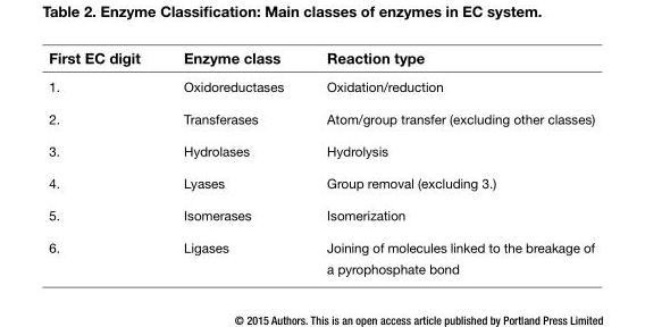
<table><thead><tr><td>First EC digit</td><td>Enzyme class</td><td>Reaction type</td></tr></thead><tbody><tr><td>1.</td><td>Oxidoreductases</td><td>Oxidation/reduction</td></tr><tr><td>2.</td><td>Transferases</td><td>Atom/group transfer (excluding other classes)</td></tr><tr><td>3.</td><td>Hydrolases</td><td>Hydrolysis</td></tr><tr><td>4.</td><td>Lyases</td><td>Group removal (excluding 3.)</td></tr><tr><td>5.</td><td>Isomerases</td><td>Isomerization</td></tr><tr><td>6.</td><td>Ligases</td><td>Joining of molecules linked to the breakage of a pyrophosphate bond</td></tr></tbody></table>